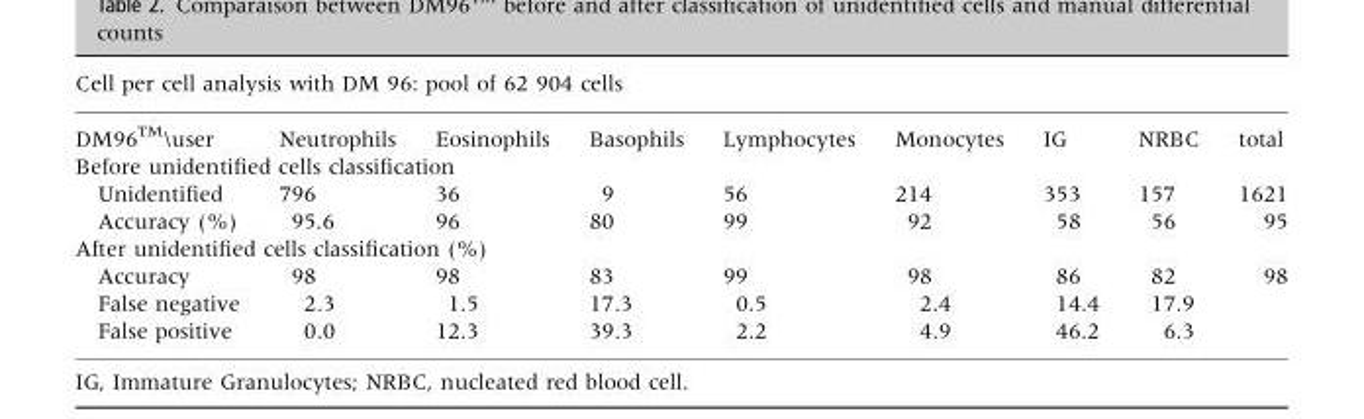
<table><thead><tr><td colspan="9">Cell per cell analysis with DM 96: pool of 62 904 cells</td></tr><tr><td>DM96TM�ser</td><td>Neutrophils</td><td>Eosinophils</td><td>Basophils</td><td>Lymphocytes</td><td>Monocytes</td><td>IG</td><td>NRBC</td><td>total</td></tr></thead><tbody><tr><td colspan="9">Before unidentified cells classification</td></tr><tr><td>Unidentified</td><td>796</td><td>36</td><td>9</td><td>56</td><td>214</td><td>353</td><td>157</td><td>1621</td></tr><tr><td>Accuracy (%)</td><td>95.6</td><td>96</td><td>80</td><td>99</td><td>92</td><td>58</td><td>56</td><td>95</td></tr><tr><td colspan="9">After unidentified cells classification (%)</td></tr><tr><td>Accuracy</td><td>98</td><td>98</td><td>83</td><td>99</td><td>98</td><td>86</td><td>82</td><td>98</td></tr><tr><td>False negative</td><td>2.3</td><td>1.5</td><td>17.3</td><td>0.5</td><td>2.4</td><td>14.4</td><td>17.9</td><td></td></tr><tr><td>False positive</td><td>0.0</td><td>12.3</td><td>39.3</td><td>2.2</td><td>4.9</td><td>46.2</td><td>6.3</td><td></td></tr></tbody></table>